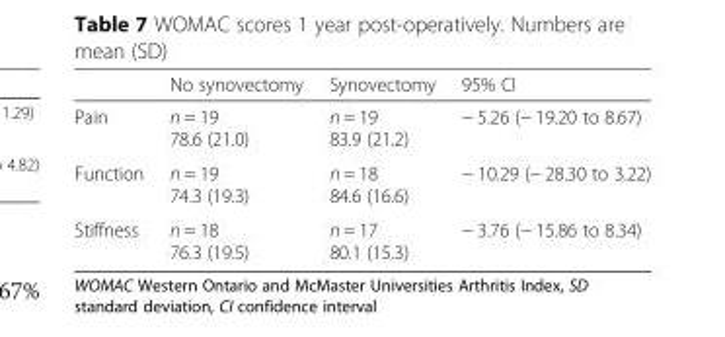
<table><thead><tr><td></td><td>No synovectomy</td><td>Synovectomy</td><td>95% CI</td></tr></thead><tbody><tr><td>Pain</td><td>n = 19 78.6 (21.0)</td><td>n = 19 83.9 (21.2)</td><td>− 5.26 (− 19.20 to 8.67)</td></tr><tr><td>Function</td><td>n = 19 74.3 (19.3)</td><td>n = 18 84.6 (16.6)</td><td>− 10.29 (− 28.30 to 3.22)</td></tr><tr><td>Stiffness</td><td>n = 18 76.3 (19.5)</td><td>n = 17 80.1 (15.3)</td><td>− 3.76 (− 15.86 to 8.34)</td></tr></tbody></table>